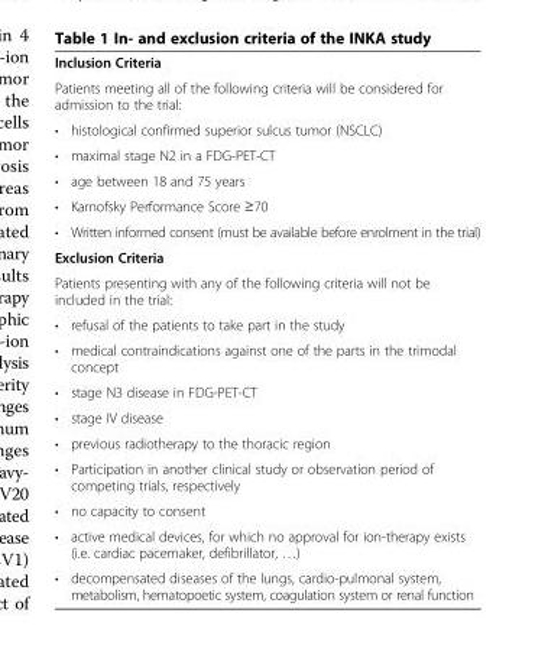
<table><tbody><tr><td colspan="2">Inclusion Criteria</td></tr><tr><td colspan="2">Patients meeting all of the following criteria will be considered for admission to the trial:</td></tr><tr><td>•</td><td>histological confirmed superior sulcus tumor (NSCLC)</td></tr><tr><td>•</td><td>maximal stage N2 in a FDG-PET-CT</td></tr><tr><td>•</td><td>age between 18 and 75 years</td></tr><tr><td>•</td><td>Karnofsky Performance Score ≥70</td></tr><tr><td>•</td><td>Written informed consent (must be available before enrolment in the trial)</td></tr><tr><td colspan="2">Exclusion Criteria</td></tr><tr><td colspan="2">Patients presenting with any of the following criteria will not be included in the trial:</td></tr><tr><td>•</td><td>refusal of the patients to take part in the study</td></tr><tr><td>•</td><td>medical contraindications against one of the parts in the trimodal concept</td></tr><tr><td>•</td><td>stage N3 disease in FDG-PET-CT</td></tr><tr><td>•</td><td>stage IV disease</td></tr><tr><td>•</td><td>previous radiotherapy to the thoracic region</td></tr><tr><td>•</td><td>Participation in another clinical study or observation period of competing trials, respectively</td></tr><tr><td>•</td><td>no capacity to consent</td></tr><tr><td>•</td><td>active medical devices, for which no approval for ion-therapy exists (i.e. cardiac pacemaker, defibrillator, …)</td></tr><tr><td>•</td><td>decompensated diseases of the lungs, cardio-pulmonal system, metabolism, hematopoetic system, coagulation system or renal function</td></tr></tbody></table>